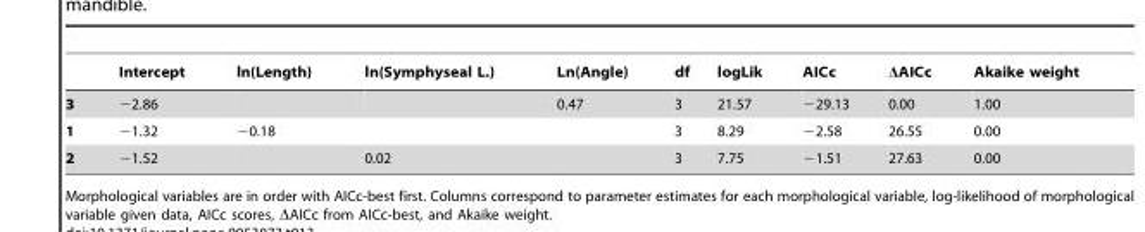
<table><thead><tr><td></td><td>Intercept</td><td>ln(Length)</td><td>ln(Symphyseal L.)</td><td>Ln(Angle)</td><td>df</td><td>logLik</td><td>AICc</td><td>ΔAICc</td><td>Akaike weight</td></tr></thead><tbody><tr><td>3</td><td>−2.86</td><td></td><td></td><td>0.47</td><td>3</td><td>21.57</td><td>−29.13</td><td>0.00</td><td>1.00</td></tr><tr><td>1</td><td>−1.32</td><td>−0.18</td><td></td><td></td><td>3</td><td>8.29</td><td>−2.58</td><td>26.55</td><td>0.00</td></tr><tr><td>2</td><td>−1.52</td><td></td><td>0.02</td><td></td><td>3</td><td>7.75</td><td>−1.51</td><td>27.63</td><td>0.00</td></tr></tbody></table>